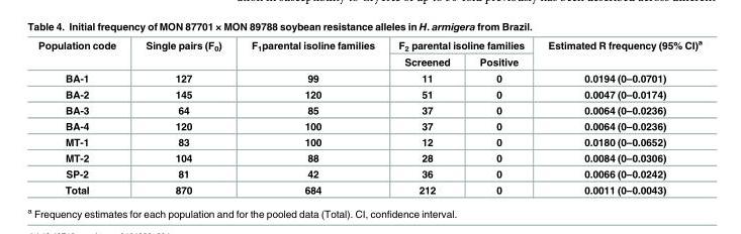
<table><thead><tr><td rowspan="2">Population code</td><td rowspan="2">Single pairs (F<sub>0</sub>)</td><td rowspan="2">F<sub>1</sub>parental isoline families</td><td colspan="2">F<sub>2</sub> parental isoline families</td><td rowspan="2">Estimated R frequency (95% CI)<sup>a</sup></td></tr><tr><td>Screened</td><td>Positive</td></tr></thead><tbody><tr><td>BA-1</td><td>127</td><td>99</td><td>11</td><td>0</td><td>0.0194 (0–0.0701)</td></tr><tr><td>BA-2</td><td>145</td><td>120</td><td>51</td><td>0</td><td>0.0047 (0–0.0174)</td></tr><tr><td>BA-3</td><td>64</td><td>85</td><td>37</td><td>0</td><td>0.0064 (0–0.0236)</td></tr><tr><td>BA-4</td><td>120</td><td>100</td><td>37</td><td>0</td><td>0.0064 (0–0.0236)</td></tr><tr><td>MT-1</td><td>83</td><td>100</td><td>12</td><td>0</td><td>0.0180 (0–0.0652)</td></tr><tr><td>MT-2</td><td>104</td><td>88</td><td>28</td><td>0</td><td>0.0084 (0–0.0306)</td></tr><tr><td>SP-2</td><td>81</td><td>42</td><td>36</td><td>0</td><td>0.0066 (0–0.0242)</td></tr><tr><td>Total</td><td>870</td><td>684</td><td>212</td><td>0</td><td>0.0011 (0–0.0043)</td></tr></tbody></table>